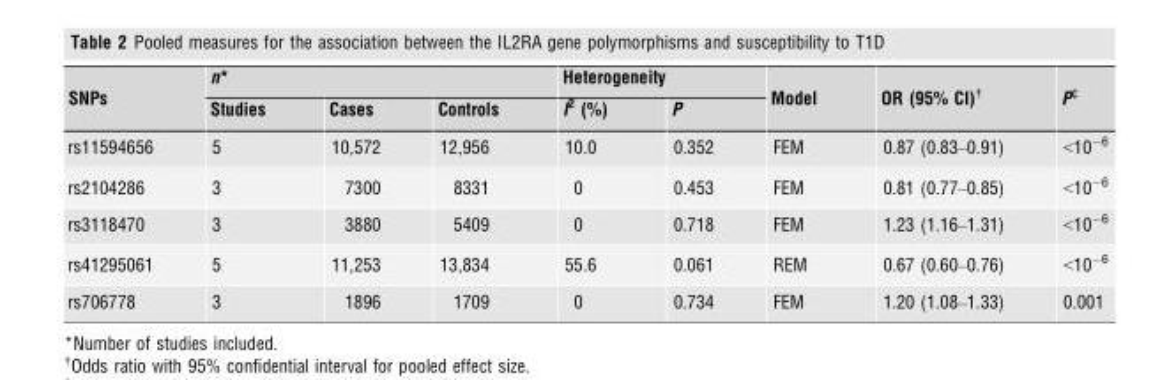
<table><thead><tr><td rowspan="2">SNPs</td><td colspan="3">n*</td><td colspan="2">Heterogeneity</td><td rowspan="2">Model</td><td rowspan="2">OR (95% CI)†</td><td rowspan="2">P‡</td></tr><tr><td>Studies</td><td>Cases</td><td>Controls</td><td>I<sup>2</sup> (%)</td><td>P</td></tr></thead><tbody><tr><td>rs11594656</td><td>5</td><td>10,572</td><td>12,956</td><td>10.0</td><td>0.352</td><td>FEM</td><td>0.87 (0.83–0.91)</td><td>&lt;10<sup>−6</sup></td></tr><tr><td>rs2104286</td><td>3</td><td>7300</td><td>8331</td><td>0</td><td>0.453</td><td>FEM</td><td>0.81 (0.77–0.85)</td><td>&lt;10<sup>−6</sup></td></tr><tr><td>rs3118470</td><td>3</td><td>3880</td><td>5409</td><td>0</td><td>0.718</td><td>FEM</td><td>1.23 (1.16–1.31)</td><td>&lt;10<sup>−6</sup></td></tr><tr><td>rs41295061</td><td>5</td><td>11,253</td><td>13,834</td><td>55.6</td><td>0.061</td><td>REM</td><td>0.67 (0.60–0.76)</td><td>&lt;10<sup>−6</sup></td></tr><tr><td>rs706778</td><td>3</td><td>1896</td><td>1709</td><td>0</td><td>0.734</td><td>FEM</td><td>1.20 (1.08–1.33)</td><td>0.001</td></tr></tbody></table>